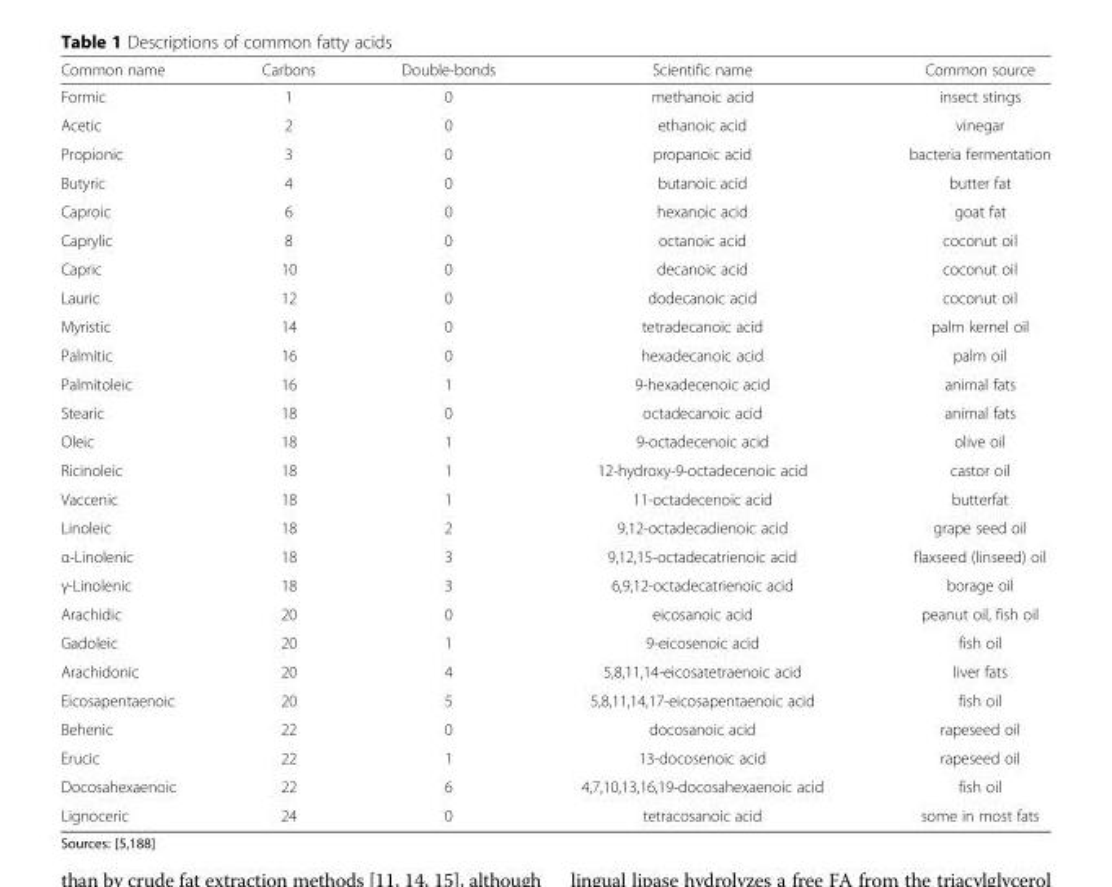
<table><thead><tr><td>Common name</td><td>Carbons</td><td>Double-bonds</td><td>Scientific name</td><td>Common source</td></tr></thead><tbody><tr><td>Formic</td><td>1</td><td>0</td><td>methanoic acid</td><td>insect stings</td></tr><tr><td>Acetic</td><td>2</td><td>0</td><td>ethanoic acid</td><td>vinegar</td></tr><tr><td>Propionic</td><td>3</td><td>0</td><td>propanoic acid</td><td>bacteria fermentation</td></tr><tr><td>Butyric</td><td>4</td><td>0</td><td>butanoic acid</td><td>butter fat</td></tr><tr><td>Caproic</td><td>6</td><td>0</td><td>hexanoic acid</td><td>goat fat</td></tr><tr><td>Caprylic</td><td>8</td><td>0</td><td>octanoic acid</td><td>coconut oil</td></tr><tr><td>Capric</td><td>10</td><td>0</td><td>decanoic acid</td><td>coconut oil</td></tr><tr><td>Lauric</td><td>12</td><td>0</td><td>dodecanoic acid</td><td>coconut oil</td></tr><tr><td>Myristic</td><td>14</td><td>0</td><td>tetradecanoic acid</td><td>palm kernel oil</td></tr><tr><td>Palmitic</td><td>16</td><td>0</td><td>hexadecanoic acid</td><td>palm oil</td></tr><tr><td>Palmitoleic</td><td>16</td><td>1</td><td>9-hexadecenoic acid</td><td>animal fats</td></tr><tr><td>Stearic</td><td>18</td><td>0</td><td>octadecanoic acid</td><td>animal fats</td></tr><tr><td>Oleic</td><td>18</td><td>1</td><td>9-octadecenoic acid</td><td>olive oil</td></tr><tr><td>Ricinoleic</td><td>18</td><td>1</td><td>12-hydroxy-9-octadecenoic acid</td><td>castor oil</td></tr><tr><td>Vaccenic</td><td>18</td><td>1</td><td>11-octadecenoic acid</td><td>butterfat</td></tr><tr><td>Linoleic</td><td>18</td><td>2</td><td>9,12-octadecadienoic acid</td><td>grape seed oil</td></tr><tr><td>α-Linolenic</td><td>18</td><td>3</td><td>9,12,15-octadecatrienoic acid</td><td>flaxseed (linseed) oil</td></tr><tr><td>γ-Linolenic</td><td>18</td><td>3</td><td>6,9,12-octadecatrienoic acid</td><td>borage oil</td></tr><tr><td>Arachidic</td><td>20</td><td>0</td><td>eicosanoic acid</td><td>peanut oil, fish oil</td></tr><tr><td>Gadoleic</td><td>20</td><td>1</td><td>9-eicosenoic acid</td><td>fish oil</td></tr><tr><td>Arachidonic</td><td>20</td><td>4</td><td>5,8,11,14-eicosatetraenoic acid</td><td>liver fats</td></tr><tr><td>Eicosapentaenoic</td><td>20</td><td>5</td><td>5,8,11,14,17-eicosapentaenoic acid</td><td>fish oil</td></tr><tr><td>Behenic</td><td>22</td><td>0</td><td>docosanoic acid</td><td>rapeseed oil</td></tr><tr><td>Erucic</td><td>22</td><td>1</td><td>13-docosenoic acid</td><td>rapeseed oil</td></tr><tr><td>Docosahexaenoic</td><td>22</td><td>6</td><td>4,7,10,13,16,19-docosahexaenoic acid</td><td>fish oil</td></tr><tr><td>Lignoceric</td><td>24</td><td>0</td><td>tetracosanoic acid</td><td>some in most fats</td></tr></tbody></table>